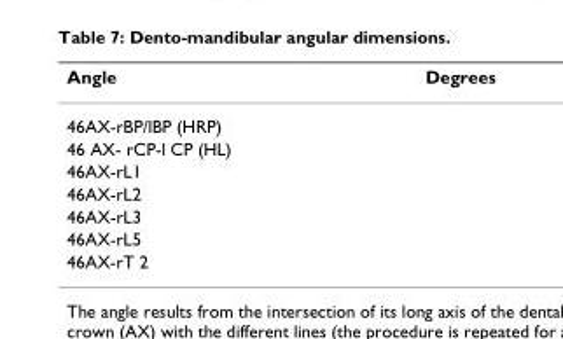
<table><thead><tr><td>Angle</td><td>Degrees</td></tr></thead><tbody><tr><td colspan="2">46AX-rBP/lBP (HRP)</td></tr><tr><td colspan="2">46 AX- rCP-l CP (HL)</td></tr><tr><td colspan="2">46AX-rL1</td></tr><tr><td colspan="2">46AX-rL2</td></tr><tr><td colspan="2">46AX-rL3</td></tr><tr><td colspan="2">46AX-rL5</td></tr><tr><td>46AX-rT 2</td><td></td></tr></tbody></table>